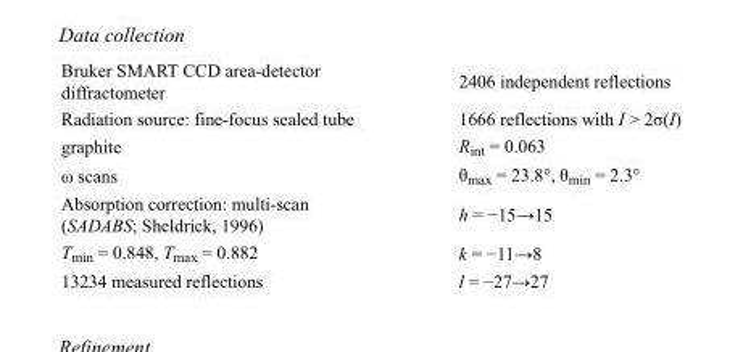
<table><tbody><tr><td>Bruker SMART CCD area-detector diffractometer</td><td>2406 independent reflections</td></tr><tr><td>Radiation source: fine-focus sealed tube</td><td>1666 reflections with I &gt; 2σ(I)</td></tr><tr><td>graphite</td><td>R<sub>int</sub> = 0.063</td></tr><tr><td>ω scans</td><td>θ<sub>max</sub> = 23.8°, θ<sub>min</sub> = 2.3°</td></tr><tr><td>Absorption correction: multi-scan (SADABS; Sheldrick, 1996)</td><td>h = −15→15</td></tr><tr><td>T<sub>min</sub> = 0.848, T<sub>max</sub> = 0.882</td><td>k = −11→8</td></tr><tr><td>13234 measured reflections</td><td>l = −27→27</td></tr></tbody></table>